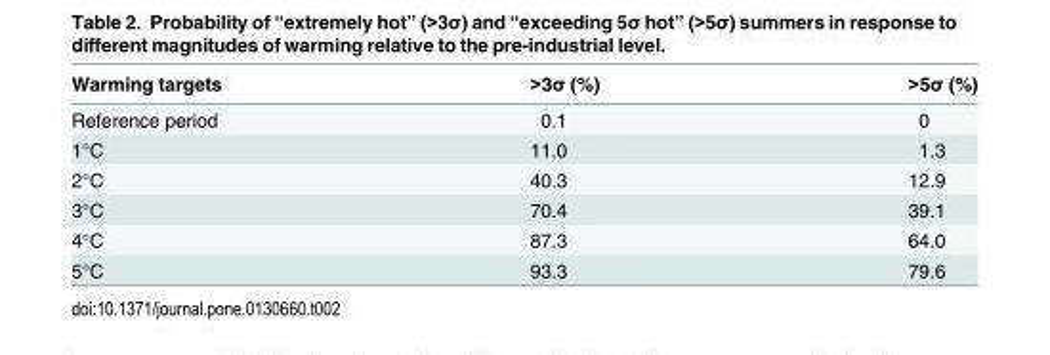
<table><thead><tr><td>Warming targets</td><td>&gt;3σ (%)</td><td>&gt;5σ (%)</td></tr></thead><tbody><tr><td>Reference period</td><td>0.1</td><td>0</td></tr><tr><td>1°C</td><td>11.0</td><td>1.3</td></tr><tr><td>2°C</td><td>40.3</td><td>12.9</td></tr><tr><td>3°C</td><td>70.4</td><td>39.1</td></tr><tr><td>4°C</td><td>87.3</td><td>64.0</td></tr><tr><td>5°C</td><td>93.3</td><td>79.6</td></tr></tbody></table>